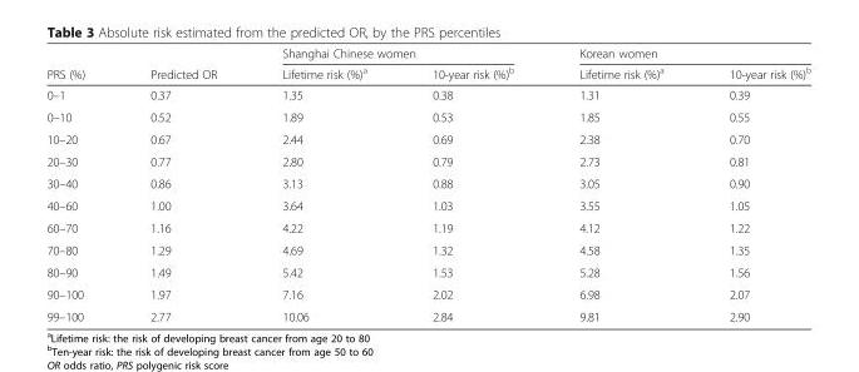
<table><thead><tr><td rowspan="2">PRS (%)</td><td rowspan="2">Predicted OR</td><td colspan="2">Shanghai Chinese women</td><td colspan="2">Korean women</td></tr><tr><td>Lifetime risk (%)<sup>a</sup></td><td>10-year risk (%)<sup>b</sup></td><td>Lifetime risk (%)<sup>a</sup></td><td>10-year risk (%)<sup>b</sup></td></tr></thead><tbody><tr><td>0–1</td><td>0.37</td><td>1.35</td><td>0.38</td><td>1.31</td><td>0.39</td></tr><tr><td>0–10</td><td>0.52</td><td>1.89</td><td>0.53</td><td>1.85</td><td>0.55</td></tr><tr><td>10–20</td><td>0.67</td><td>2.44</td><td>0.69</td><td>2.38</td><td>0.70</td></tr><tr><td>20–30</td><td>0.77</td><td>2.80</td><td>0.79</td><td>2.73</td><td>0.81</td></tr><tr><td>30–40</td><td>0.86</td><td>3.13</td><td>0.88</td><td>3.05</td><td>0.90</td></tr><tr><td>40–60</td><td>1.00</td><td>3.64</td><td>1.03</td><td>3.55</td><td>1.05</td></tr><tr><td>60–70</td><td>1.16</td><td>4.22</td><td>1.19</td><td>4.12</td><td>1.22</td></tr><tr><td>70–80</td><td>1.29</td><td>4.69</td><td>1.32</td><td>4.58</td><td>1.35</td></tr><tr><td>80–90</td><td>1.49</td><td>5.42</td><td>1.53</td><td>5.28</td><td>1.56</td></tr><tr><td>90–100</td><td>1.97</td><td>7.16</td><td>2.02</td><td>6.98</td><td>2.07</td></tr><tr><td>99–100</td><td>2.77</td><td>10.06</td><td>2.84</td><td>9.81</td><td>2.90</td></tr></tbody></table>